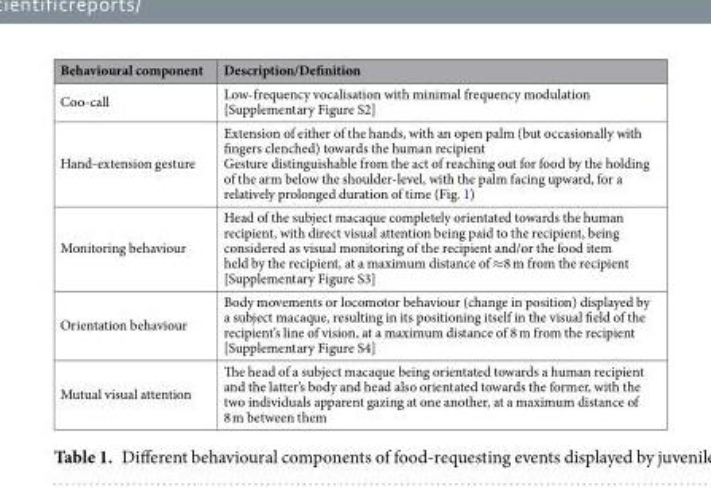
<table><thead><tr><td>Behavioural component</td><td>Description/Definition</td></tr></thead><tbody><tr><td>Coo-call</td><td>Low-frequency vocalisation with minimal frequency modulation [Supplementary Figure S2]</td></tr><tr><td>Hand-extension gesture</td><td>Extension of either of the hands, with an open palm (but occasionally with fingers clenched) towards the human recipient Gesture distinguishable from the act of reaching out for food by the holding of the arm below the shoulder-level, with the palm facing upward, for a relatively prolonged duration of time (Fig. 1)</td></tr><tr><td>Monitoring behaviour</td><td>Head of the subject macaque completely orientated towards the human recipient, with direct visual attention being paid to the recipient, being considered as visual monitoring of the recipient and/or the food item held by the recipient, at a maximum distance of ≈8 m from the recipient [Supplementary Figure S3]</td></tr><tr><td>Orientation behaviour</td><td>Body movements or locomotor behaviour (change in position) displayed by a subject macaque, resulting in its positioning itself in the visual field of the recipient’s line of vision, at a maximum distance of 8 m from the recipient [Supplementary Figure S4]</td></tr><tr><td>Mutual visual attention</td><td>The head of a subject macaque being orientated towards a human recipient and the latter’s body and head also orientated towards the former, with the two individuals apparent gazing at one another, at a maximum distance of 8 m between them</td></tr></tbody></table>